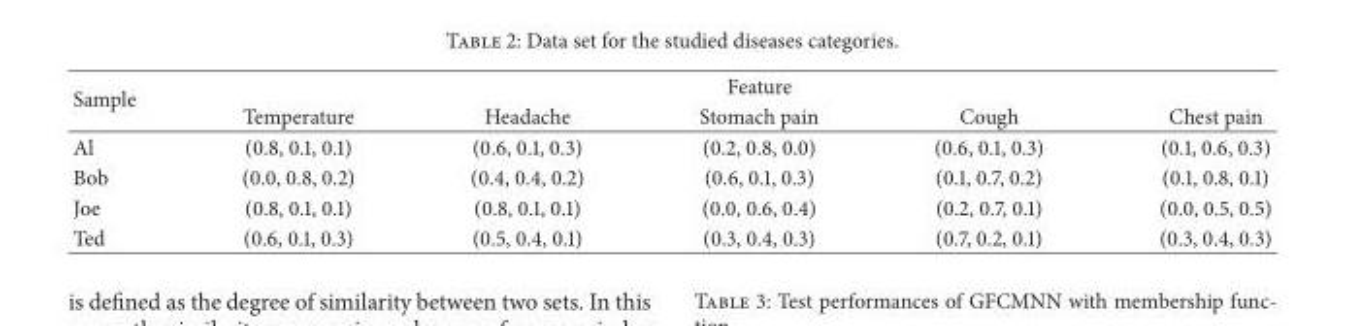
<table><thead><tr><td rowspan="2">Sample</td><td colspan="5">Feature</td></tr><tr><td>Temperature</td><td>Headache</td><td>Stomach pain</td><td>Cough</td><td>Chest pain</td></tr></thead><tbody><tr><td>Al</td><td>(0.8, 0.1, 0.1)</td><td>(0.6, 0.1, 0.3)</td><td>(0.2, 0.8, 0.0)</td><td>(0.6, 0.1, 0.3)</td><td>(0.1, 0.6, 0.3)</td></tr><tr><td>Bob</td><td>(0.0, 0.8, 0.2)</td><td>(0.4, 0.4, 0.2)</td><td>(0.6, 0.1, 0.3)</td><td>(0.1, 0.7, 0.2)</td><td>(0.1, 0.8, 0.1)</td></tr><tr><td>Joe</td><td>(0.8, 0.1, 0.1)</td><td>(0.8, 0.1, 0.1)</td><td>(0.0, 0.6, 0.4)</td><td>(0.2, 0.7, 0.1)</td><td>(0.0, 0.5, 0.5)</td></tr><tr><td>Ted</td><td>(0.6, 0.1, 0.3)</td><td>(0.5, 0.4, 0.1)</td><td>(0.3, 0.4, 0.3)</td><td>(0.7, 0.2, 0.1)</td><td>(0.3, 0.4, 0.3)</td></tr></tbody></table>